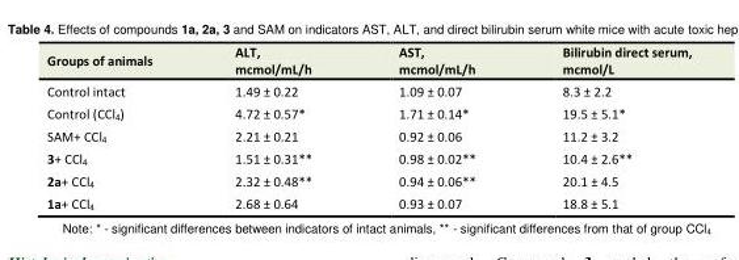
<table><tbody><tr><td>Groups of animals</td><td>ALT, mcmol/mL/h</td><td>АSТ, mcmol/mL/h</td><td>Bilirubin direct serum, mcmol/L</td></tr><tr><td>Control intact</td><td>1.49 ± 0.22</td><td>1.09 ± 0.07</td><td>8.3 ± 2.2</td></tr><tr><td>Control (CCl<sub>4</sub>)</td><td>4.72 ± 0.57*</td><td>1.71 ± 0.14*</td><td>19.5 ± 5.1*</td></tr><tr><td>SAM+ CCl<sub>4</sub></td><td>2.21 ± 0.21</td><td>0.92 ± 0.06</td><td>11.2 ± 3.2</td></tr><tr><td>3+ CCl<sub>4</sub></td><td>1.51 ± 0.31**</td><td>0.98 ± 0.02**</td><td>10.4 ± 2.6**</td></tr><tr><td>2a+ CCl<sub>4</sub></td><td>2.32 ± 0.48**</td><td>0.94 ± 0.06**</td><td>20.1 ± 4.5</td></tr><tr><td>1a+ CCl<sub>4</sub></td><td>2.68 ± 0.64</td><td>0.93 ± 0.07</td><td>18.8 ± 5.1</td></tr></tbody></table>